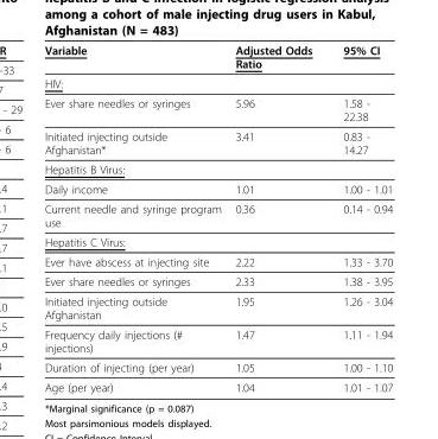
<table><thead><tr><td>Variable</td><td>Adjusted Odds Ratio</td><td>95% CI</td></tr></thead><tbody><tr><td colspan="3">HIV:</td></tr><tr><td>Ever share needles or syringes</td><td>5.96</td><td>1.58 - 22.38</td></tr><tr><td>Initiated injecting outside Afghanistan*</td><td>3.41</td><td>0.83 - 14.27</td></tr><tr><td colspan="3">Hepatitis B Virus:</td></tr><tr><td>Daily income</td><td>1.01</td><td>1.00 - 1.01</td></tr><tr><td>Current needle and syringe program use</td><td>0.36</td><td>0.14 - 0.94</td></tr><tr><td colspan="3">Hepatitis C Virus:</td></tr><tr><td>Ever have abscess at injecting site</td><td>2.22</td><td>1.33 - 3.70</td></tr><tr><td>Ever share needles or syringes</td><td>2.33</td><td>1.38 - 3.95</td></tr><tr><td>Initiated injecting outside Afghanistan</td><td>1.95</td><td>1.26 - 3.04</td></tr><tr><td>Frequency daily injections (# injections)</td><td>1.47</td><td>1.11 - 1.94</td></tr><tr><td>Duration of injecting (per year)</td><td>1.05</td><td>1.00 - 1.10</td></tr><tr><td>Age (per year)</td><td>1.04</td><td>1.01 - 1.07</td></tr></tbody></table>